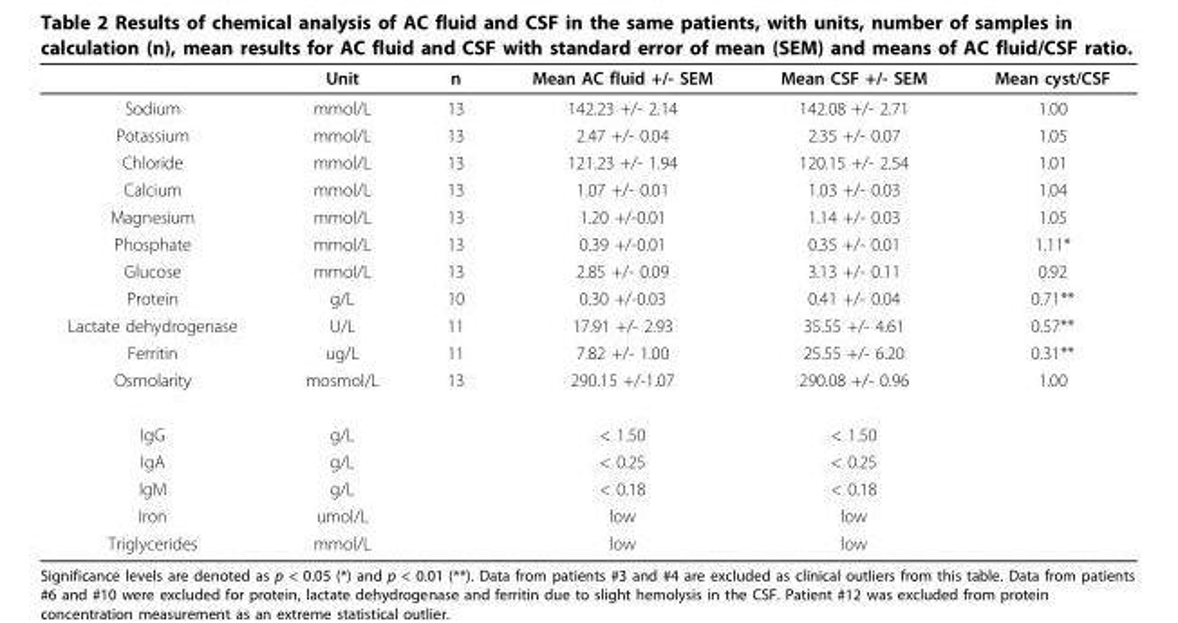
<table><thead><tr><td></td><td>Unit</td><td>n</td><td>Mean AC fluid +/- SEM</td><td>Mean CSF +/- SEM</td><td>Mean cyst/CSF</td></tr></thead><tbody><tr><td>Sodium</td><td>mmol/L</td><td>13</td><td>142.23 +/- 2.14</td><td>142.08 +/- 2.71</td><td>1.00</td></tr><tr><td>Potassium</td><td>mmol/L</td><td>13</td><td>2.47 +/- 0.04</td><td>2.35 +/- 0.07</td><td>1.05</td></tr><tr><td>Chloride</td><td>mmol/L</td><td>13</td><td>121.23 +/- 1.94</td><td>120.15 +/- 2.54</td><td>1.01</td></tr><tr><td>Calcium</td><td>mmol/L</td><td>13</td><td>1.07 +/- 0.01</td><td>1.03 +/- 0.03</td><td>1.04</td></tr><tr><td>Magnesium</td><td>mmol/L</td><td>13</td><td>1.20 +/-0.01</td><td>1.14 +/- 0.03</td><td>1.05</td></tr><tr><td>Phosphate</td><td>mmol/L</td><td>13</td><td>0.39 +/-0.01</td><td>0.35 +/- 0.01</td><td>1.11*</td></tr><tr><td>Glucose</td><td>mmol/L</td><td>13</td><td>2.85 +/- 0.09</td><td>3.13 +/- 0.11</td><td>0.92</td></tr><tr><td>Protein</td><td>g/L</td><td>10</td><td>0.30 +/-0.03</td><td>0.41 +/- 0.04</td><td>0.71**</td></tr><tr><td>Lactate dehydrogenase</td><td>U/L</td><td>11</td><td>17.91 +/- 2.93</td><td>35.55 +/- 4.61</td><td>0.57**</td></tr><tr><td>Ferritin</td><td>ug/L</td><td>11</td><td>7.82 +/- 1.00</td><td>25.55 +/- 6.20</td><td>0.31**</td></tr><tr><td>Osmolarity</td><td>mosmol/L</td><td>13</td><td>290.15 +/-1.07</td><td>290.08 +/- 0.96</td><td>1.00</td></tr><tr><td>IgG</td><td>g/L</td><td></td><td>&lt; 1.50</td><td>&lt; 1.50</td><td></td></tr><tr><td>IgA</td><td>g/L</td><td></td><td>&lt; 0.25</td><td>&lt; 0.25</td><td></td></tr><tr><td>IgM</td><td>g/L</td><td></td><td>&lt; 0.18</td><td>&lt; 0.18</td><td></td></tr><tr><td>Iron</td><td>umol/L</td><td></td><td>low</td><td>low</td><td></td></tr><tr><td>Triglycerides</td><td>mmol/L</td><td></td><td>low</td><td>low</td><td></td></tr></tbody></table>